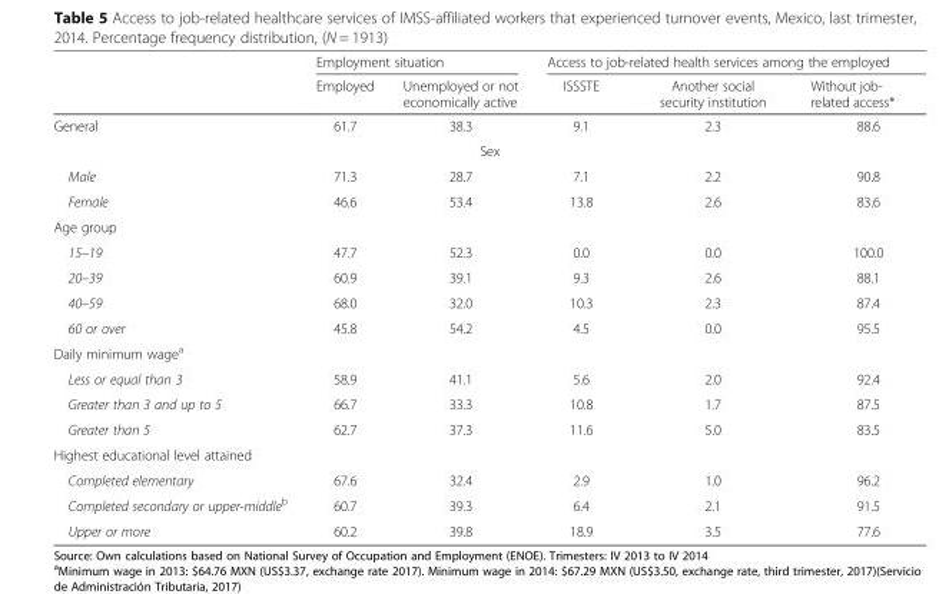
<table><thead><tr><td rowspan="2"></td><td colspan="2">Employment situation</td><td colspan="3">Access to job-related health services among the employed</td></tr><tr><td>Employed</td><td>Unemployed or not economically active</td><td>ISSSTE</td><td>Another social security institution</td><td>Without job- related access*</td></tr></thead><tbody><tr><td>General</td><td>61.7</td><td>38.3</td><td>9.1</td><td>2.3</td><td>88.6</td></tr><tr><td colspan="6">Sex</td></tr><tr><td>Male</td><td>71.3</td><td>28.7</td><td>7.1</td><td>2.2</td><td>90.8</td></tr><tr><td>Female</td><td>46.6</td><td>53.4</td><td>13.8</td><td>2.6</td><td>83.6</td></tr><tr><td colspan="6">Age group</td></tr><tr><td>15–19</td><td>47.7</td><td>52.3</td><td>0.0</td><td>0.0</td><td>100.0</td></tr><tr><td>20–39</td><td>60.9</td><td>39.1</td><td>9.3</td><td>2.6</td><td>88.1</td></tr><tr><td>40–59</td><td>68.0</td><td>32.0</td><td>10.3</td><td>2.3</td><td>87.4</td></tr><tr><td>60 or over</td><td>45.8</td><td>54.2</td><td>4.5</td><td>0.0</td><td>95.5</td></tr><tr><td colspan="6">Daily minimum wage<sup>a</sup></td></tr><tr><td>Less or equal than 3</td><td>58.9</td><td>41.1</td><td>5.6</td><td>2.0</td><td>92.4</td></tr><tr><td>Greater than 3 and up to 5</td><td>66.7</td><td>33.3</td><td>10.8</td><td>1.7</td><td>87.5</td></tr><tr><td>Greater than 5</td><td>62.7</td><td>37.3</td><td>11.6</td><td>5.0</td><td>83.5</td></tr><tr><td colspan="6">Highest educational level attained</td></tr><tr><td>Completed elementary</td><td>67.6</td><td>32.4</td><td>2.9</td><td>1.0</td><td>96.2</td></tr><tr><td>Completed secondary or upper-middle<sup>b</sup></td><td>60.7</td><td>39.3</td><td>6.4</td><td>2.1</td><td>91.5</td></tr><tr><td>Upper or more</td><td>60.2</td><td>39.8</td><td>18.9</td><td>3.5</td><td>77.6</td></tr></tbody></table>